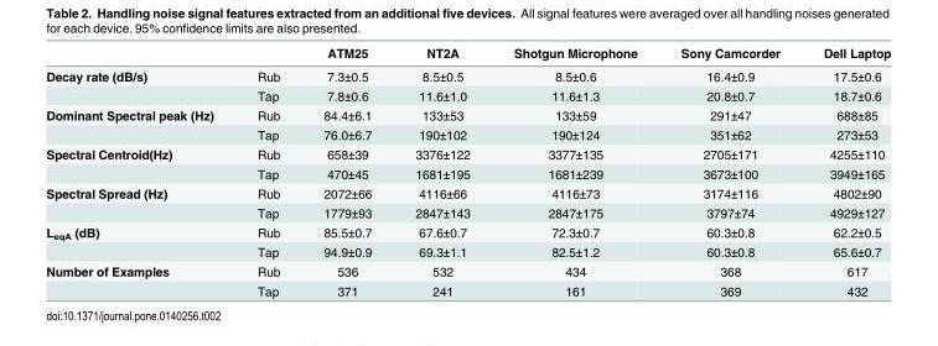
<table><thead><tr><td></td><td></td><td>ATM25</td><td>NT2A</td><td>Shotgun Microphone</td><td>Sony Camcorder</td><td>Dell Laptop</td></tr></thead><tbody><tr><td rowspan="2">Decay rate (dB/s)</td><td>Rub</td><td>7.3±0.5</td><td>8.5±0.5</td><td>8.5±0.6</td><td>16.4±0.9</td><td>17.5±0.6</td></tr><tr><td>Tap</td><td>7.8±0.6</td><td>11.6±1.0</td><td>11.6±1.3</td><td>20.8±0.7</td><td>18.7±0.6</td></tr><tr><td rowspan="2">Dominant Spectral peak (Hz)</td><td>Rub</td><td>84.4±6.1</td><td>133±53</td><td>133±59</td><td>291±47</td><td>688±85</td></tr><tr><td>Tap</td><td>76.0±6.7</td><td>190±102</td><td>190±124</td><td>351±62</td><td>273±53</td></tr><tr><td rowspan="2">Spectral Centroid(Hz)</td><td>Rub</td><td>658±39</td><td>3376±122</td><td>3377±135</td><td>2705±171</td><td>4255±110</td></tr><tr><td>Tap</td><td>470±45</td><td>1681±195</td><td>1681±239</td><td>3673±100</td><td>3949±165</td></tr><tr><td rowspan="2">Spectral Spread (Hz)</td><td>Rub</td><td>2072±66</td><td>4116±66</td><td>4116±73</td><td>3174±116</td><td>4802±90</td></tr><tr><td>Tap</td><td>1779±93</td><td>2847±143</td><td>2847±175</td><td>3797±74</td><td>4929±127</td></tr><tr><td rowspan="2">L<sub>eqA</sub> (dB)</td><td>Rub</td><td>85.5±0.7</td><td>67.6±0.7</td><td>72.3±0.7</td><td>60.3±0.8</td><td>62.2±0.5</td></tr><tr><td>Tap</td><td>94.9±0.9</td><td>69.3±1.1</td><td>82.5±1.2</td><td>60.3±0.8</td><td>65.6±0.7</td></tr><tr><td rowspan="2">Number of Examples</td><td>Rub</td><td>536</td><td>532</td><td>434</td><td>368</td><td>617</td></tr><tr><td>Tap</td><td>371</td><td>241</td><td>161</td><td>369</td><td>432</td></tr></tbody></table>